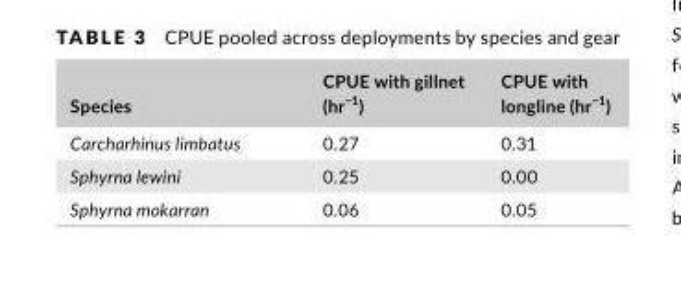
<table><thead><tr><td>Species</td><td>CPUE with gillnet (hr<sup>−1</sup>)</td><td>CPUE with longline (hr<sup>−1</sup>)</td></tr></thead><tbody><tr><td>Carcharhinus limbatus</td><td>0.27</td><td>0.31</td></tr><tr><td>Sphyrna lewini</td><td>0.25</td><td>0.00</td></tr><tr><td>Sphyrna mokarran</td><td>0.06</td><td>0.05</td></tr></tbody></table>